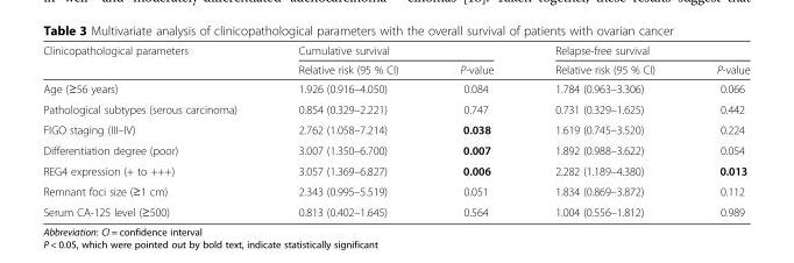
<table><thead><tr><td rowspan="2">Clinicopathological parameters</td><td colspan="2">Cumulative survival</td><td colspan="2">Relapse-free survival</td></tr><tr><td>Relative risk (95 % CI)</td><td>P-value</td><td>Relative risk (95 % CI)</td><td>P-value</td></tr></thead><tbody><tr><td>Age (≥56 years)</td><td>1.926 (0.916–4.050)</td><td>0.084</td><td>1.784 (0.963–3.306)</td><td>0.066</td></tr><tr><td>Pathological subtypes (serous carcinoma)</td><td>0.854 (0.329–2.221)</td><td>0.747</td><td>0.731 (0.329–1.625)</td><td>0.442</td></tr><tr><td>FIGO staging (III–IV)</td><td>2.762 (1.058–7.214)</td><td>0.038</td><td>1.619 (0.745–3.520)</td><td>0.224</td></tr><tr><td>Differentiation degree (poor)</td><td>3.007 (1.350–6.700)</td><td>0.007</td><td>1.892 (0.988–3.622)</td><td>0.054</td></tr><tr><td>REG4 expression (+ to +++)</td><td>3.057 (1.369–6.827)</td><td>0.006</td><td>2.282 (1.189–4.380)</td><td>0.013</td></tr><tr><td>Remnant foci size (≥1 cm)</td><td>2.343 (0.995–5.519)</td><td>0.051</td><td>1.834 (0.869–3.872)</td><td>0.112</td></tr><tr><td>Serum CA-125 level (≥500)</td><td>0.813 (0.402–1.645)</td><td>0.564</td><td>1.004 (0.556–1.812)</td><td>0.989</td></tr></tbody></table>